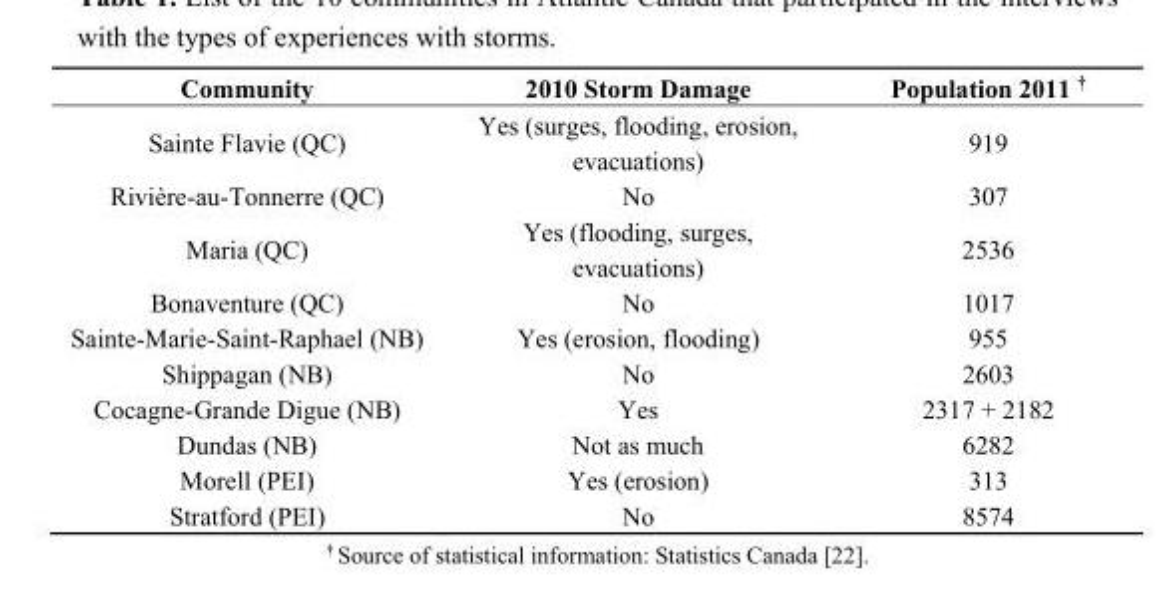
<table><thead><tr><td>Community</td><td>2010 Storm Damage</td><td>Population 2011 <sup>†</sup></td></tr></thead><tbody><tr><td>Sainte Flavie (QC)</td><td>Yes (surges, flooding, erosion, evacuations)</td><td>919</td></tr><tr><td>Rivière-au-Tonnerre (QC)</td><td>No</td><td>307</td></tr><tr><td>Maria (QC)</td><td>Yes (flooding, surges, evacuations)</td><td>2536</td></tr><tr><td>Bonaventure (QC)</td><td>No</td><td>1017</td></tr><tr><td>Sainte-Marie-Saint-Raphael (NB)</td><td>Yes (erosion, flooding)</td><td>955</td></tr><tr><td>Shippagan (NB)</td><td>No</td><td>2603</td></tr><tr><td>Cocagne-Grande Digue (NB)</td><td>Yes</td><td>2317 + 2182</td></tr><tr><td>Dundas (NB)</td><td>Not as much</td><td>6282</td></tr><tr><td>Morell (PEI)</td><td>Yes (erosion)</td><td>313</td></tr><tr><td>Stratford (PEI)</td><td>No</td><td>8574</td></tr></tbody></table>